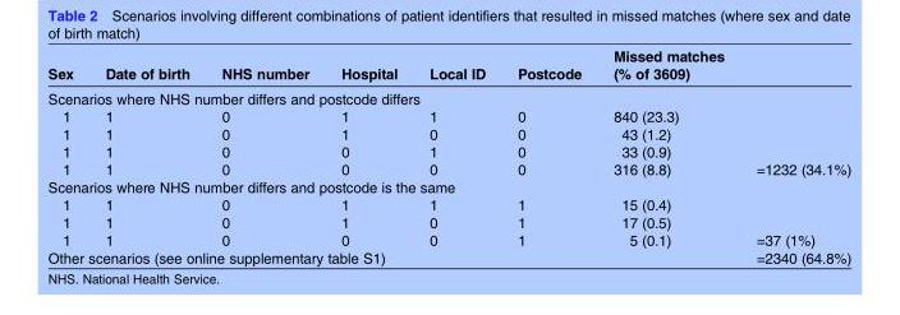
<table><thead><tr><td>Sex</td><td>Date of birth</td><td>NHS number</td><td>Hospital</td><td>Local ID</td><td>Postcode</td><td>Missed matches (% of 3609)</td><td></td></tr></thead><tbody><tr><td colspan="8">Scenarios where NHS number differs and postcode differs</td></tr><tr><td>1</td><td>1</td><td>0</td><td>1</td><td>1</td><td>0</td><td>840 (23.3)</td><td></td></tr><tr><td>1</td><td>1</td><td>0</td><td>1</td><td>0</td><td>0</td><td>43 (1.2)</td><td></td></tr><tr><td>1</td><td>1</td><td>0</td><td>0</td><td>1</td><td>0</td><td>33 (0.9)</td><td></td></tr><tr><td>1</td><td>1</td><td>0</td><td>0</td><td>0</td><td>0</td><td>316 (8.8)</td><td>=1232 (34.1%)</td></tr><tr><td colspan="8">Scenarios where NHS number differs and postcode is the same</td></tr><tr><td>1</td><td>1</td><td>0</td><td>1</td><td>1</td><td>1</td><td>15 (0.4)</td><td></td></tr><tr><td>1</td><td>1</td><td>0</td><td>1</td><td>0</td><td>1</td><td>17 (0.5)</td><td></td></tr><tr><td>1</td><td>1</td><td>0</td><td>0</td><td>0</td><td>1</td><td>5 (0.1)</td><td>=37 (1%)</td></tr><tr><td colspan="7">Other scenarios (see online supplementary table S1)</td><td>=2340 (64.8%)</td></tr></tbody></table>